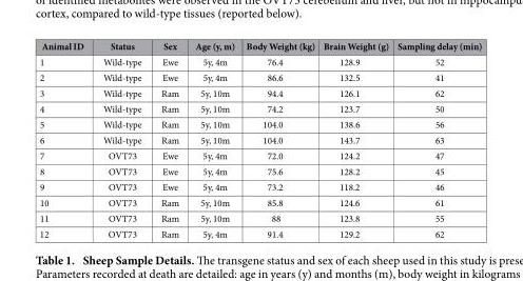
<table><thead><tr><td>Animal ID</td><td>Status</td><td>Sex</td><td>Age (y, m)</td><td>Body Weight (kg)</td><td>Brain Weight (g)</td><td>Sampling delay (min)</td></tr></thead><tbody><tr><td>1</td><td>Wild-type</td><td>Ewe</td><td>5y, 4m</td><td>76.4</td><td>128.9</td><td>52</td></tr><tr><td>2</td><td>Wild-type</td><td>Ewe</td><td>5y, 4m</td><td>86.6</td><td>132.5</td><td>41</td></tr><tr><td>3</td><td>Wild-type</td><td>Ram</td><td>5y, 10m</td><td>94.4</td><td>126.1</td><td>62</td></tr><tr><td>4</td><td>Wild-type</td><td>Ram</td><td>5y, 10m</td><td>74.2</td><td>123.7</td><td>50</td></tr><tr><td>5</td><td>Wild-type</td><td>Ram</td><td>5y, 10m</td><td>104.0</td><td>138.6</td><td>56</td></tr><tr><td>6</td><td>Wild-type</td><td>Ram</td><td>5y, 10m</td><td>104.0</td><td>143.7</td><td>63</td></tr><tr><td>7</td><td>OVT73</td><td>Ewe</td><td>5y, 4m</td><td>72.0</td><td>124.2</td><td>47</td></tr><tr><td>8</td><td>OVT73</td><td>Ewe</td><td>5y, 4m</td><td>75.6</td><td>128.2</td><td>45</td></tr><tr><td>9</td><td>OVT73</td><td>Ewe</td><td>5y, 4m</td><td>73.2</td><td>118.2</td><td>46</td></tr><tr><td>10</td><td>OVT73</td><td>Ram</td><td>5y, 10m</td><td>85.8</td><td>124.6</td><td>61</td></tr><tr><td>11</td><td>OVT73</td><td>Ram</td><td>5y, 10m</td><td>88</td><td>123.8</td><td>55</td></tr><tr><td>12</td><td>OVT73</td><td>Ram</td><td>5y, 4m</td><td>91.4</td><td>129.2</td><td>62</td></tr></tbody></table>